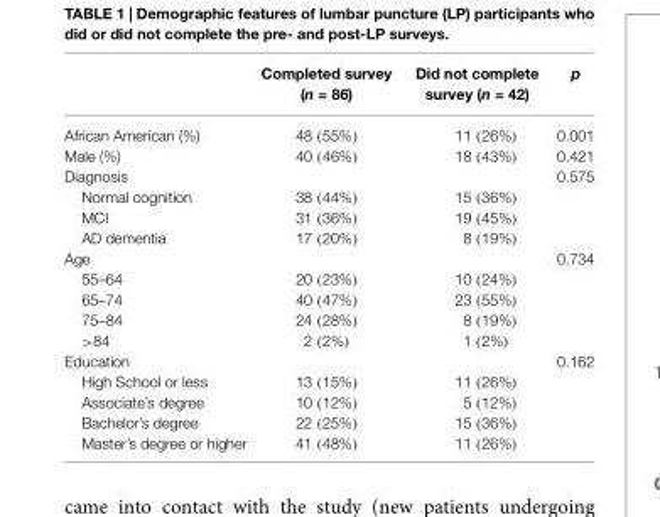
<table><thead><tr><td></td><td>Completed survey (n = 86)</td><td>Did not complete survey (n = 42)</td><td>p</td></tr></thead><tbody><tr><td>African American (%)</td><td>48 (55%)</td><td>11 (26%)</td><td>0.001</td></tr><tr><td>Male (%)</td><td>40 (46%)</td><td>18 (43%)</td><td>0.421</td></tr><tr><td>Diagnosis</td><td></td><td></td><td>0.575</td></tr><tr><td>Normal cognition</td><td>38 (44%)</td><td>15 (36%)</td><td></td></tr><tr><td>MCI</td><td>31 (36%)</td><td>19 (45%)</td><td></td></tr><tr><td>AD dementia</td><td>17 (20%)</td><td>8 (19%)</td><td></td></tr><tr><td>Age</td><td></td><td></td><td>0.734</td></tr><tr><td>55–64</td><td>20 (23%)</td><td>10 (24%)</td><td></td></tr><tr><td>65–74</td><td>40 (47%)</td><td>23 (55%)</td><td></td></tr><tr><td>75–84</td><td>24 (28%)</td><td>8 (19%)</td><td></td></tr><tr><td>&gt;84</td><td>2 (2%)</td><td>1 (2%)</td><td></td></tr><tr><td>Education</td><td></td><td></td><td>0.162</td></tr><tr><td>High School or less</td><td>13 (15%)</td><td>11 (26%)</td><td></td></tr><tr><td>Associate’s degree</td><td>10 (12%)</td><td>5 (12%)</td><td></td></tr><tr><td>Bachelor’s degree</td><td>22 (25%)</td><td>15 (36%)</td><td></td></tr><tr><td>Master’s degree or higher</td><td>41 (48%)</td><td>11 (26%)</td><td></td></tr></tbody></table>